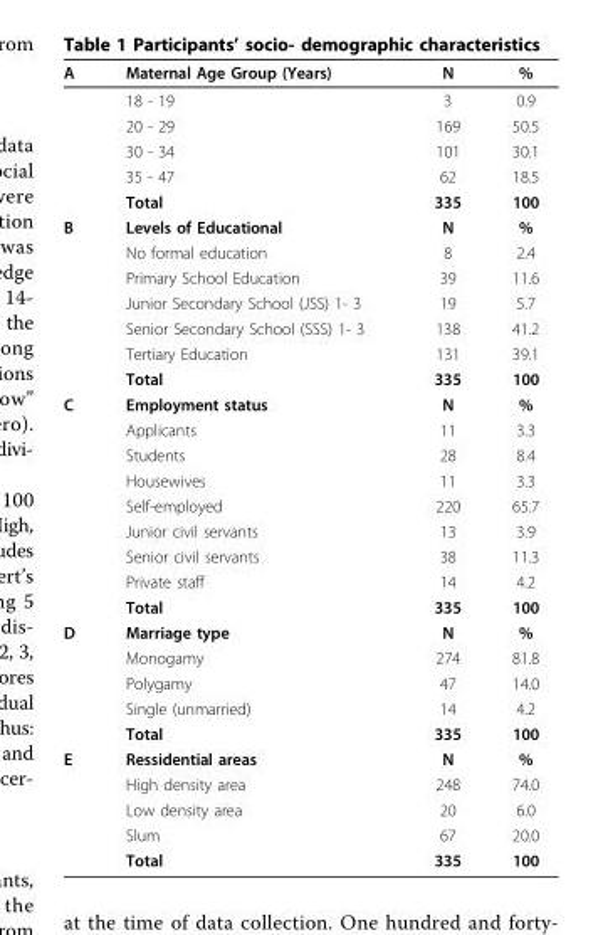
<table><thead><tr><td>A</td><td>Maternal Age Group (Years)</td><td>N</td><td>%</td></tr></thead><tbody><tr><td></td><td>18 - 19</td><td>3</td><td>0.9</td></tr><tr><td></td><td>20 - 29</td><td>169</td><td>50.5</td></tr><tr><td></td><td>30 - 34</td><td>101</td><td>30.1</td></tr><tr><td></td><td>35 - 47</td><td>62</td><td>18.5</td></tr><tr><td></td><td>Total</td><td>335</td><td>100</td></tr><tr><td rowspan="7">B</td><td>Levels of Educational</td><td>N</td><td>%</td></tr><tr><td>No formal education</td><td>8</td><td>2.4</td></tr><tr><td>Primary School Education</td><td>39</td><td>11.6</td></tr><tr><td>Junior Secondary School (JSS) 1- 3</td><td>19</td><td>5.7</td></tr><tr><td>Senior Secondary School (SSS) 1- 3</td><td>138</td><td>41.2</td></tr><tr><td>Tertiary Education</td><td>131</td><td>39.1</td></tr><tr><td>Total</td><td>335</td><td>100</td></tr><tr><td rowspan="9">C</td><td>Employment status</td><td>N</td><td>%</td></tr><tr><td>Applicants</td><td>11</td><td>3.3</td></tr><tr><td>Students</td><td>28</td><td>8.4</td></tr><tr><td>Housewives</td><td>11</td><td>3.3</td></tr><tr><td>Self-employed</td><td>220</td><td>65.7</td></tr><tr><td>Junior civil servants</td><td>13</td><td>3.9</td></tr><tr><td>Senior civil servants</td><td>38</td><td>11.3</td></tr><tr><td>Private staff</td><td>14</td><td>4.2</td></tr><tr><td>Total</td><td>335</td><td>100</td></tr><tr><td rowspan="5">D</td><td>Marriage type</td><td>N</td><td>%</td></tr><tr><td>Monogamy</td><td>274</td><td>81.8</td></tr><tr><td>Polygamy</td><td>47</td><td>14.0</td></tr><tr><td>Single (unmarried)</td><td>14</td><td>4.2</td></tr><tr><td>Total</td><td>335</td><td>100</td></tr><tr><td rowspan="5">E</td><td>Ressidential areas</td><td>N</td><td>%</td></tr><tr><td>High density area</td><td>248</td><td>74.0</td></tr><tr><td>Low density area</td><td>20</td><td>6.0</td></tr><tr><td>Slum</td><td>67</td><td>20.0</td></tr><tr><td>Total</td><td>335</td><td>100</td></tr></tbody></table>